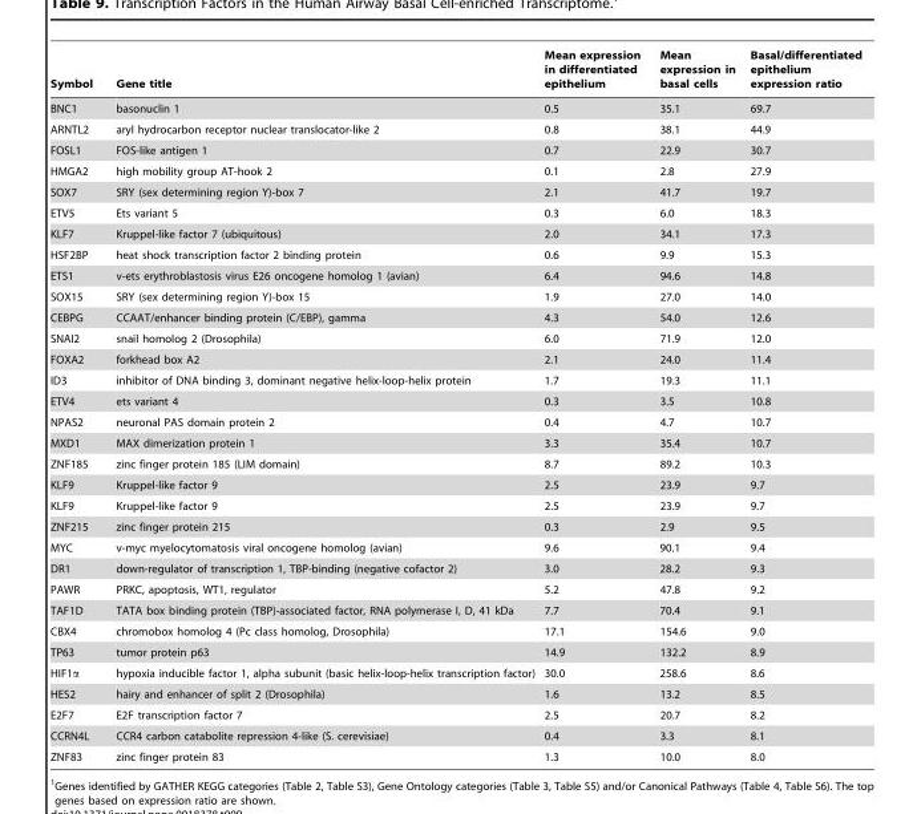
<table><thead><tr><td>Symbol</td><td>Gene title</td><td>Mean expression in differentiated epithelium</td><td>Mean expression in basal cells</td><td>Basal/differentiated epithelium expression ratio</td></tr></thead><tbody><tr><td>BNC1</td><td>basonuclin 1</td><td>0.5</td><td>35.1</td><td>69.7</td></tr><tr><td>ARNTL2</td><td>aryl hydrocarbon receptor nuclear translocator-like 2</td><td>0.8</td><td>38.1</td><td>44.9</td></tr><tr><td>FOSL1</td><td>FOS-like antigen 1</td><td>0.7</td><td>22.9</td><td>30.7</td></tr><tr><td>HMGA2</td><td>high mobility group AT-hook 2</td><td>0.1</td><td>2.8</td><td>27.9</td></tr><tr><td>SOX7</td><td>SRY (sex determining region Y)-box 7</td><td>2.1</td><td>41.7</td><td>19.7</td></tr><tr><td>ETV5</td><td>Ets variant 5</td><td>0.3</td><td>6.0</td><td>18.3</td></tr><tr><td>KLF7</td><td>Kruppel-like factor 7 (ubiquitous)</td><td>2.0</td><td>34.1</td><td>17.3</td></tr><tr><td>HSF2BP</td><td>heat shock transcription factor 2 binding protein</td><td>0.6</td><td>9.9</td><td>15.3</td></tr><tr><td>ETS1</td><td>v-ets erythroblastosis virus E26 oncogene homolog 1 (avian)</td><td>6.4</td><td>94.6</td><td>14.8</td></tr><tr><td>SOX15</td><td>SRY (sex determining region Y)-box 15</td><td>1.9</td><td>27.0</td><td>14.0</td></tr><tr><td>CEBPG</td><td>CCAAT/enhancer binding protein (C/EBP), gamma</td><td>4.3</td><td>54.0</td><td>12.6</td></tr><tr><td>SNAI2</td><td>snail homolog 2 (Drosophila)</td><td>6.0</td><td>71.9</td><td>12.0</td></tr><tr><td>FOXA2</td><td>forkhead box A2</td><td>2.1</td><td>24.0</td><td>11.4</td></tr><tr><td>ID3</td><td>inhibitor of DNA binding 3, dominant negative helix-loop-helix protein</td><td>1.7</td><td>19.3</td><td>11.1</td></tr><tr><td>ETV4</td><td>ets variant 4</td><td>0.3</td><td>3.5</td><td>10.8</td></tr><tr><td>NPAS2</td><td>neuronal PAS domain protein 2</td><td>0.4</td><td>4.7</td><td>10.7</td></tr><tr><td>MXD1</td><td>MAX dimerization protein 1</td><td>3.3</td><td>35.4</td><td>10.7</td></tr><tr><td>ZNF185</td><td>zinc finger protein 185 (LIM domain)</td><td>8.7</td><td>89.2</td><td>10.3</td></tr><tr><td>KLF9</td><td>Kruppel-like factor 9</td><td>2.5</td><td>23.9</td><td>9.7</td></tr><tr><td>KLF9</td><td>Kruppel-like factor 9</td><td>2.5</td><td>23.9</td><td>9.7</td></tr><tr><td>ZNF215</td><td>zinc finger protein 215</td><td>0.3</td><td>2.9</td><td>9.5</td></tr><tr><td>MYC</td><td>v-myc myelocytomatosis viral oncogene homolog (avian)</td><td>9.6</td><td>90.1</td><td>9.4</td></tr><tr><td>DR1</td><td>down-regulator of transcription 1, TBP-binding (negative cofactor 2)</td><td>3.0</td><td>28.2</td><td>9.3</td></tr><tr><td>PAWR</td><td>PRKC, apoptosis, WT1, regulator</td><td>5.2</td><td>47.8</td><td>9.2</td></tr><tr><td>TAF1D</td><td>TATA box binding protein (TBP)-associated factor, RNA polymerase I, D, 41 kDa</td><td>7.7</td><td>70.4</td><td>9.1</td></tr><tr><td>CBX4</td><td>chromobox homolog 4 (Pc class homolog, Drosophila)</td><td>17.1</td><td>154.6</td><td>9.0</td></tr><tr><td>TP63</td><td>tumor protein p63</td><td>14.9</td><td>132.2</td><td>8.9</td></tr><tr><td>HIF1α</td><td>hypoxia inducible factor 1, alpha subunit (basic helix-loop-helix transcription factor)</td><td>30.0</td><td>258.6</td><td>8.6</td></tr><tr><td>HES2</td><td>hairy and enhancer of split 2 (Drosophila)</td><td>1.6</td><td>13.2</td><td>8.5</td></tr><tr><td>E2F7</td><td>E2F transcription factor 7</td><td>2.5</td><td>20.7</td><td>8.2</td></tr><tr><td>CCRN4L</td><td>CCR4 carbon catabolite repression 4-like (S. cerevisiae)</td><td>0.4</td><td>3.3</td><td>8.1</td></tr><tr><td>ZNF83</td><td>zinc finger protein 83</td><td>1.3</td><td>10.0</td><td>8.0</td></tr></tbody></table>